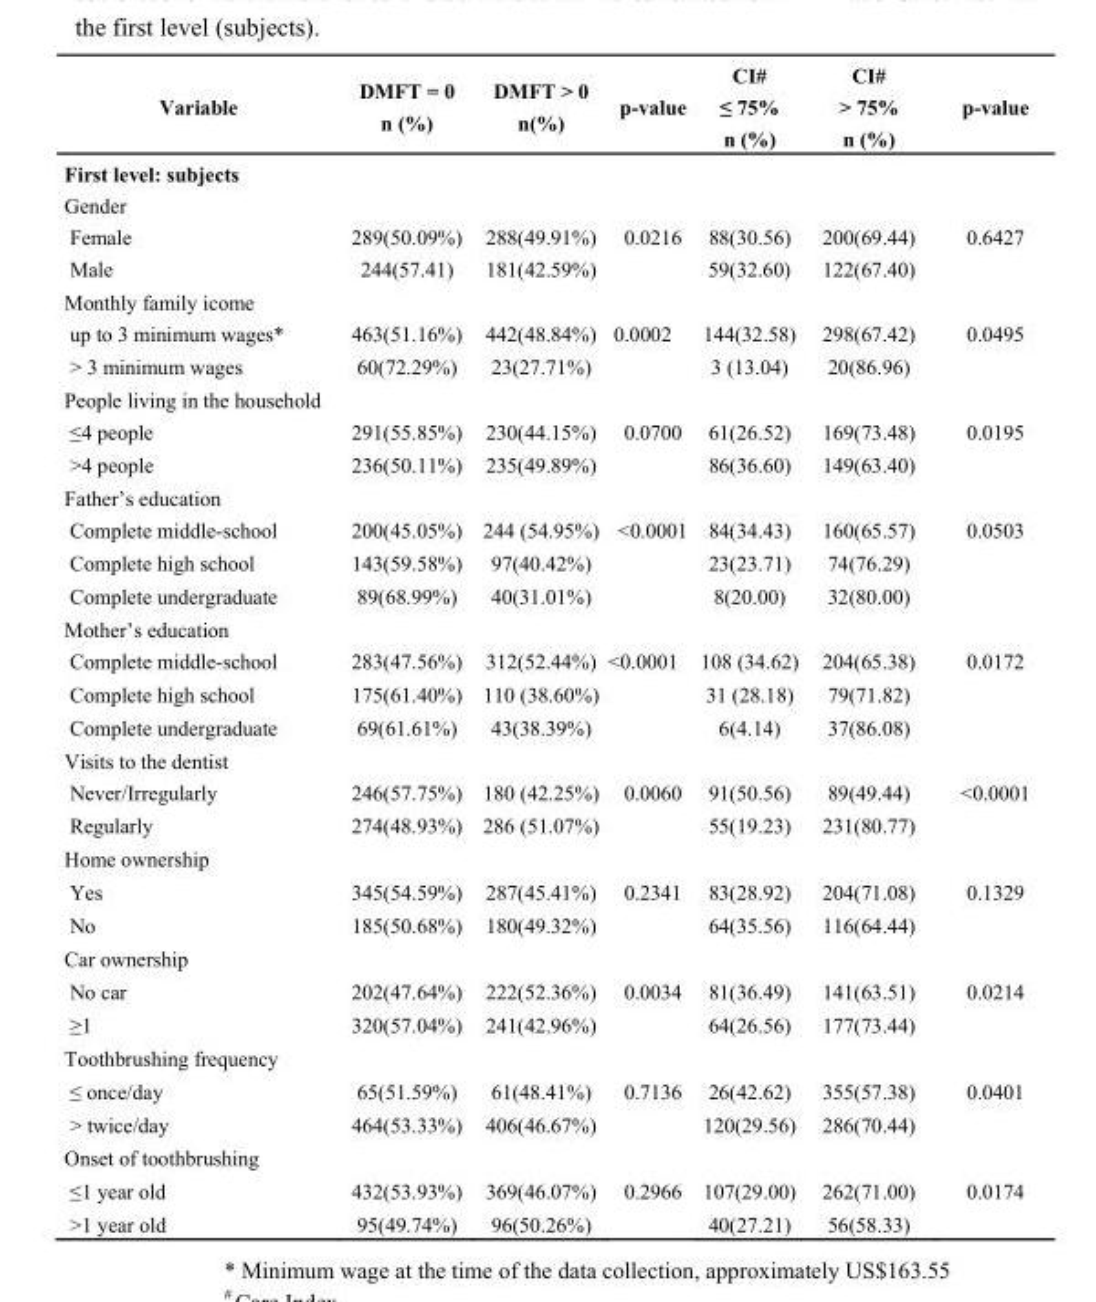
<table><thead><tr><td>Variable</td><td>DMFT = 0 n (%)</td><td>DMFT &gt; 0 n(%)</td><td>p-value</td><td>CI# ≤ 75% n (%)</td><td>CI# &gt; 75% n (%)</td><td>p-value</td></tr></thead><tbody><tr><td colspan="7">First level: subjects</td></tr><tr><td colspan="7">Gender</td></tr><tr><td>Female</td><td>289(50.09%)</td><td>288(49.91%)</td><td>0.0216</td><td>88(30.56)</td><td>200(69.44)</td><td>0.6427</td></tr><tr><td>Male</td><td>244(57.41)</td><td>181(42.59%)</td><td></td><td>59(32.60)</td><td>122(67.40)</td><td></td></tr><tr><td>Monthly family icome up to 3 minimum wages*</td><td>463(51.16%)</td><td>442(48.84%)</td><td>0.0002</td><td>144(32.58)</td><td>298(67.42)</td><td>0.0495</td></tr><tr><td>&gt; 3 minimum wages</td><td>60(72.29%)</td><td>23(27.71%)</td><td></td><td>3 (13.04)</td><td>20(86.96)</td><td></td></tr><tr><td colspan="7">People living in the household</td></tr><tr><td>≤4 people</td><td>291(55.85%)</td><td>230(44.15%)</td><td>0.0700</td><td>61(26.52)</td><td>169(73.48)</td><td>0.0195</td></tr><tr><td>&gt;4 people</td><td>236(50.11%)</td><td>235(49.89%)</td><td></td><td>86(36.60)</td><td>149(63.40)</td><td></td></tr><tr><td colspan="7">Father’s education</td></tr><tr><td>Complete middle-school</td><td>200(45.05%)</td><td>244 (54.95%)</td><td>&lt;0.0001</td><td>84(34.43)</td><td>160(65.57)</td><td>0.0503</td></tr><tr><td>Complete high school</td><td>143(59.58%)</td><td>97(40.42%)</td><td></td><td>23(23.71)</td><td>74(76.29)</td><td></td></tr><tr><td>Complete undergraduate</td><td>89(68.99%)</td><td>40(31.01%)</td><td></td><td>8(20.00)</td><td>32(80.00)</td><td></td></tr><tr><td colspan="7">Mother’s education</td></tr><tr><td>Complete middle-school</td><td>283(47.56%)</td><td>312(52.44%)</td><td>&lt;0.0001</td><td>108 (34.62)</td><td>204(65.38)</td><td>0.0172</td></tr><tr><td>Complete high school</td><td>175(61.40%)</td><td>110 (38.60%)</td><td></td><td>31 (28.18)</td><td>79(71.82)</td><td></td></tr><tr><td>Complete undergraduate</td><td>69(61.61%)</td><td>43(38.39%)</td><td></td><td>6(4.14)</td><td>37(86.08)</td><td></td></tr><tr><td colspan="7">Visits to the dentist</td></tr><tr><td>Never/Irregularly</td><td>246(57.75%)</td><td>180 (42.25%)</td><td>0.0060</td><td>91(50.56)</td><td>89(49.44)</td><td>&lt;0.0001</td></tr><tr><td>Regularly</td><td>274(48.93%)</td><td>286 (51.07%)</td><td></td><td>55(19.23)</td><td>231(80.77)</td><td></td></tr><tr><td colspan="7">Home ownership</td></tr><tr><td>Yes</td><td>345(54.59%)</td><td>287(45.41%)</td><td>0.2341</td><td>83(28.92)</td><td>204(71.08)</td><td>0.1329</td></tr><tr><td>No</td><td>185(50.68%)</td><td>180(49.32%)</td><td></td><td>64(35.56)</td><td>116(64.44)</td><td></td></tr><tr><td colspan="7">Car ownership</td></tr><tr><td>No car</td><td>202(47.64%)</td><td>222(52.36%)</td><td>0.0034</td><td>81(36.49)</td><td>141(63.51)</td><td>0.0214</td></tr><tr><td>≥1</td><td>320(57.04%)</td><td>241(42.96%)</td><td></td><td>64(26.56)</td><td>177(73.44)</td><td></td></tr><tr><td colspan="7">Toothbrushing frequency</td></tr><tr><td>≤ once/day</td><td>65(51.59%)</td><td>61(48.41%)</td><td>0.7136</td><td>26(42.62)</td><td>355(57.38)</td><td>0.0401</td></tr><tr><td>&gt; twice/day</td><td>464(53.33%)</td><td>406(46.67%)</td><td></td><td>120(29.56)</td><td>286(70.44)</td><td></td></tr><tr><td colspan="7">Onset of toothbrushing</td></tr><tr><td>≤1 year old</td><td>432(53.93%)</td><td>369(46.07%)</td><td>0.2966</td><td>107(29.00)</td><td>262(71.00)</td><td>0.0174</td></tr><tr><td>&gt;1 year old</td><td>95(49.74%)</td><td>96(50.26%)</td><td></td><td>40(27.21)</td><td>56(58.33)</td><td></td></tr></tbody></table>